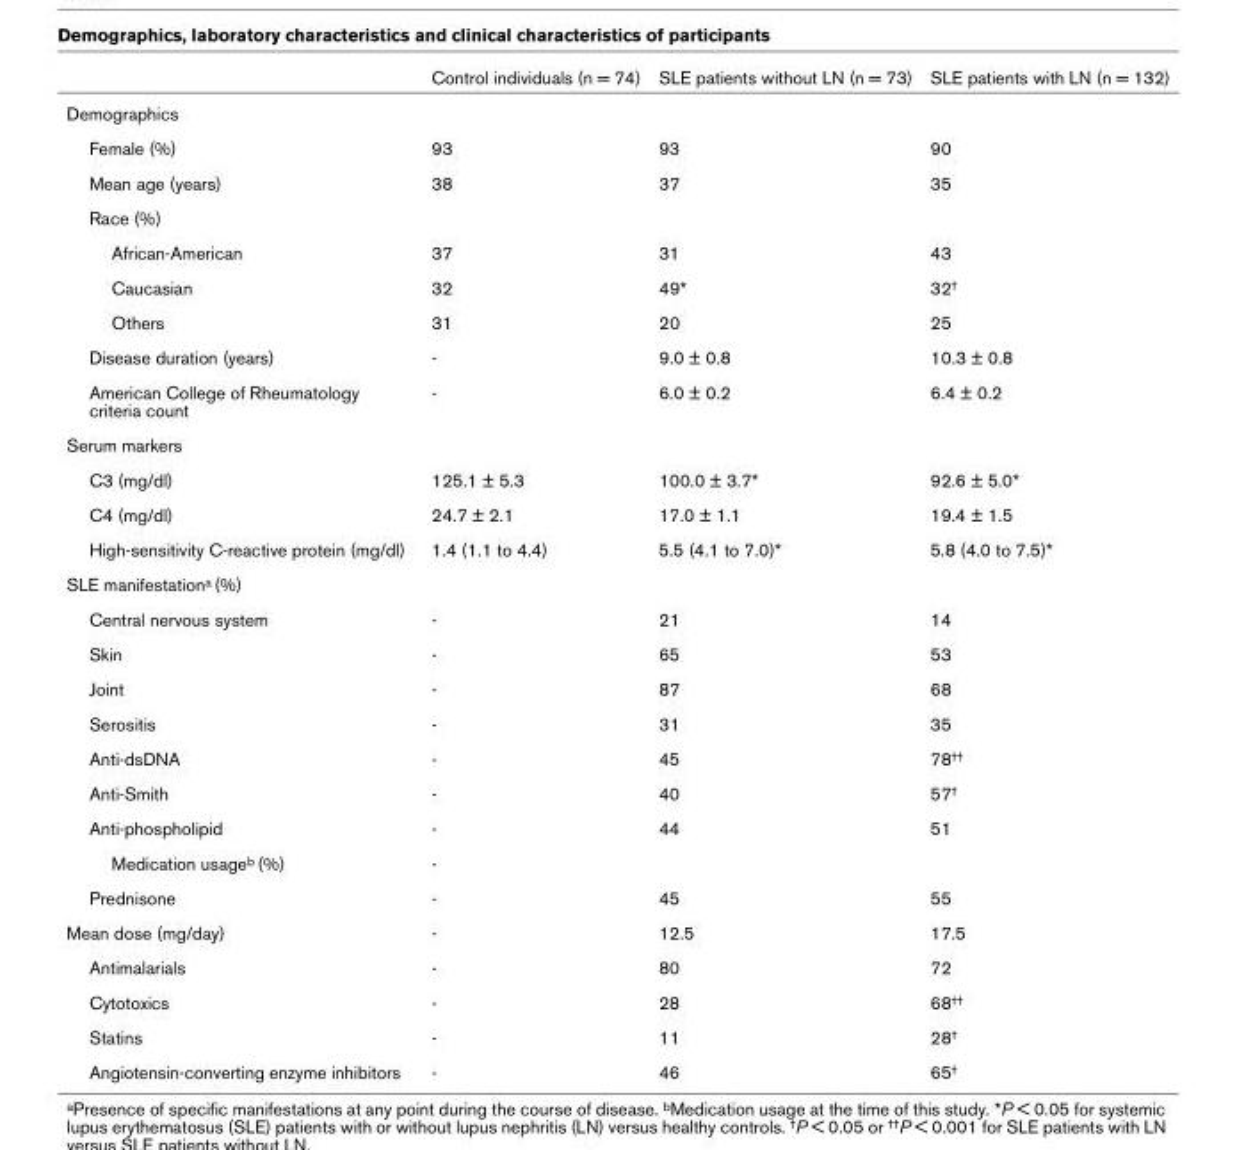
<table><thead><tr><td></td><td>Control individuals (n = 74)</td><td>SLE patients without LN (n = 73)</td><td>SLE patients with LN (n = 132)</td></tr></thead><tbody><tr><td colspan="4">Demographics</td></tr><tr><td>Female (%)</td><td>93</td><td>93</td><td>90</td></tr><tr><td>Mean age (years)</td><td>38</td><td>37</td><td>35</td></tr><tr><td colspan="4">Race (%)</td></tr><tr><td>African-American</td><td>37</td><td>31</td><td>43</td></tr><tr><td>Caucasian</td><td>32</td><td>49*</td><td>32<sup>†</sup></td></tr><tr><td>Others</td><td>31</td><td>20</td><td>25</td></tr><tr><td>Disease duration (years)</td><td>-</td><td>9.0 ± 0.8</td><td>10.3 ± 0.8</td></tr><tr><td>American College of Rheumatology criteria count</td><td>-</td><td>6.0 ± 0.2</td><td>6.4 ± 0.2</td></tr><tr><td colspan="4">Serum markers</td></tr><tr><td>C3 (mg/dl)</td><td>125.1 ± 5.3</td><td>100.0 ± 3.7*</td><td>92.6 ± 5.0*</td></tr><tr><td>C4 (mg/dl)</td><td>24.7 ± 2.1</td><td>17.0 ± 1.1</td><td>19.4 ± 1.5</td></tr><tr><td>High-sensitivity C-reactive protein (mg/dl)</td><td>1.4 (1.1 to 4.4)</td><td>5.5 (4.1 to 7.0)*</td><td>5.8 (4.0 to 7.5)*</td></tr><tr><td colspan="4">SLE manifestation<sup>a</sup> (%)</td></tr><tr><td>Central nervous system</td><td>-</td><td>21</td><td>14</td></tr><tr><td>Skin</td><td>-</td><td>65</td><td>53</td></tr><tr><td>Joint</td><td>-</td><td>87</td><td>68</td></tr><tr><td>Serositis</td><td>-</td><td>31</td><td>35</td></tr><tr><td>Anti-dsDNA</td><td>-</td><td>45</td><td>78<sup>††</sup></td></tr><tr><td>Anti-Smith</td><td>-</td><td>40</td><td>57<sup>†</sup></td></tr><tr><td>Anti-phospholipid</td><td>-</td><td>44</td><td>51</td></tr><tr><td>Medication usage<sup>b</sup> (%)</td><td>-</td><td></td><td></td></tr><tr><td>Prednisone</td><td>-</td><td>45</td><td>55</td></tr><tr><td>Mean dose (mg/day)</td><td>-</td><td>12.5</td><td>17.5</td></tr><tr><td>Antimalarials</td><td>-</td><td>80</td><td>72</td></tr><tr><td>Cytotoxics</td><td>-</td><td>28</td><td>68<sup>††</sup></td></tr><tr><td>Statins</td><td>-</td><td>11</td><td>28<sup>†</sup></td></tr><tr><td>Angiotensin-converting enzyme inhibitors</td><td>-</td><td>46</td><td>65<sup>†</sup></td></tr></tbody></table>